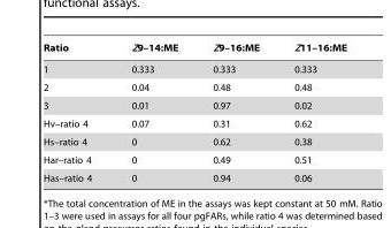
<table><thead><tr><td>Ratio</td><td>Z9–14:ME</td><td>Z9–16:ME</td><td>Z11–16:ME</td></tr></thead><tbody><tr><td>1</td><td>0.333</td><td>0.333</td><td>0.333</td></tr><tr><td>2</td><td>0.04</td><td>0.48</td><td>0.48</td></tr><tr><td>3</td><td>0.01</td><td>0.97</td><td>0.02</td></tr><tr><td>Hv–ratio 4</td><td>0.07</td><td>0.31</td><td>0.62</td></tr><tr><td>Hs–ratio 4</td><td>0</td><td>0.62</td><td>0.38</td></tr><tr><td>Har–ratio 4</td><td>0</td><td>0.49</td><td>0.51</td></tr><tr><td>Has–ratio 4</td><td>0</td><td>0.94</td><td>0.06</td></tr></tbody></table>